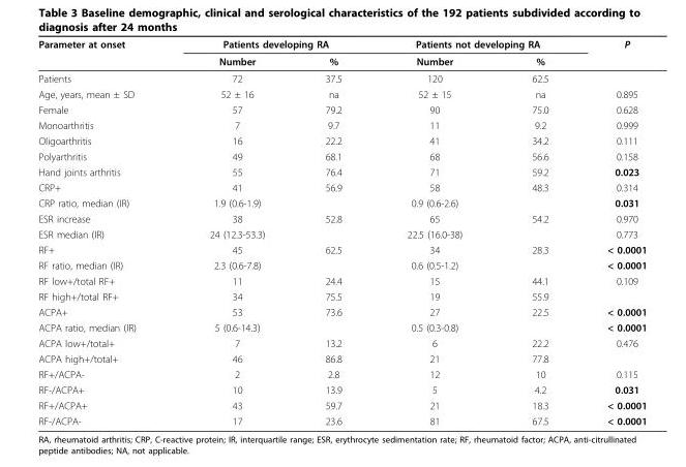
<table><thead><tr><td rowspan="2">Parameter at onset</td><td colspan="2">Patients developing RA</td><td colspan="2">Patients not developing RA</td><td rowspan="2">P</td></tr><tr><td>Number</td><td>%</td><td>Number</td><td>%</td></tr></thead><tbody><tr><td>Patients</td><td>72</td><td>37.5</td><td>120</td><td>62.5</td><td></td></tr><tr><td>Age, years, mean ± SD</td><td>52 ± 16</td><td>na</td><td>52 ± 15</td><td>na</td><td>0.895</td></tr><tr><td>Female</td><td>57</td><td>79.2</td><td>90</td><td>75.0</td><td>0.628</td></tr><tr><td>Monoarthritis</td><td>7</td><td>9.7</td><td>11</td><td>9.2</td><td>0.999</td></tr><tr><td>Oligoarthritis</td><td>16</td><td>22.2</td><td>41</td><td>34.2</td><td>0.111</td></tr><tr><td>Polyarthritis</td><td>49</td><td>68.1</td><td>68</td><td>56.6</td><td>0.158</td></tr><tr><td>Hand joints arthritis</td><td>55</td><td>76.4</td><td>71</td><td>59.2</td><td>0.023</td></tr><tr><td>CRP+</td><td>41</td><td>56.9</td><td>58</td><td>48.3</td><td>0.314</td></tr><tr><td>CRP ratio, median (IR)</td><td>1.9 (0.6-1.9)</td><td></td><td>0.9 (0.6-2.6)</td><td></td><td>0.031</td></tr><tr><td>ESR increase</td><td>38</td><td>52.8</td><td>65</td><td>54.2</td><td>0.970</td></tr><tr><td>ESR median (IR)</td><td>24 (12.3-53.3)</td><td></td><td>22.5 (16.0-38)</td><td></td><td>0.773</td></tr><tr><td>RF+</td><td>45</td><td>62.5</td><td>34</td><td>28.3</td><td>&lt; 0.0001</td></tr><tr><td>RF ratio, median (IR)</td><td>2.3 (0.6-7.8)</td><td></td><td>0.6 (0.5-1.2)</td><td></td><td>&lt; 0.0001</td></tr><tr><td>RF low+/total RF+</td><td>11</td><td>24.4</td><td>15</td><td>44.1</td><td>0.109</td></tr><tr><td>RF high+/total RF+</td><td>34</td><td>75.5</td><td>19</td><td>55.9</td><td></td></tr><tr><td>ACPA+</td><td>53</td><td>73.6</td><td>27</td><td>22.5</td><td>&lt; 0.0001</td></tr><tr><td>ACPA ratio, median (IR)</td><td>5 (0.6-14.3)</td><td></td><td>0.5 (0.3-0.8)</td><td></td><td>&lt; 0.0001</td></tr><tr><td>ACPA low+/total+</td><td>7</td><td>13.2</td><td>6</td><td>22.2</td><td>0.476</td></tr><tr><td>ACPA high+/total+</td><td>46</td><td>86.8</td><td>21</td><td>77.8</td><td></td></tr><tr><td>RF+/ACPA-</td><td>2</td><td>2.8</td><td>12</td><td>10</td><td>0.115</td></tr><tr><td>RF-/ACPA+</td><td>10</td><td>13.9</td><td>5</td><td>4.2</td><td>0.031</td></tr><tr><td>RF+/ACPA+</td><td>43</td><td>59.7</td><td>21</td><td>18.3</td><td>&lt; 0.0001</td></tr><tr><td>RF-/ACPA-</td><td>17</td><td>23.6</td><td>81</td><td>67.5</td><td>&lt; 0.0001</td></tr></tbody></table>